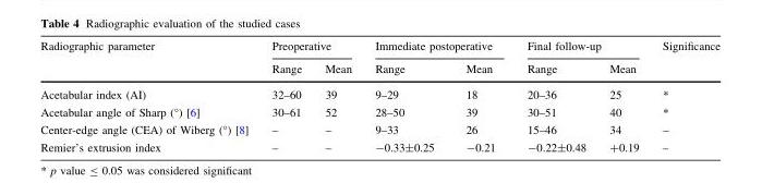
<table><thead><tr><td rowspan="2">Radiographic parameter</td><td colspan="2">Preoperative</td><td colspan="2">Immediate postoperative</td><td colspan="2">Final follow-up</td><td rowspan="2">Significance</td></tr><tr><td>Range</td><td>Mean</td><td>Range</td><td>Mean</td><td>Range</td><td>Mean</td></tr></thead><tbody><tr><td>Acetabular index (AI)</td><td>32–60</td><td>39</td><td>9–29</td><td>18</td><td>20–36</td><td>25</td><td>*</td></tr><tr><td>Acetabular angle of Sharp (°) [6]</td><td>30–61</td><td>52</td><td>28–50</td><td>39</td><td>30–51</td><td>40</td><td>*</td></tr><tr><td>Center-edge angle (CEA) of Wiberg (°) [8]</td><td>–</td><td>–</td><td>9–33</td><td>26</td><td>15–46</td><td>34</td><td>–</td></tr><tr><td>Remier’s extrusion index</td><td>–</td><td>–</td><td>-0.33±0.25</td><td>-0.21</td><td>-0.22±0.48</td><td>+0.19</td><td>–</td></tr></tbody></table>